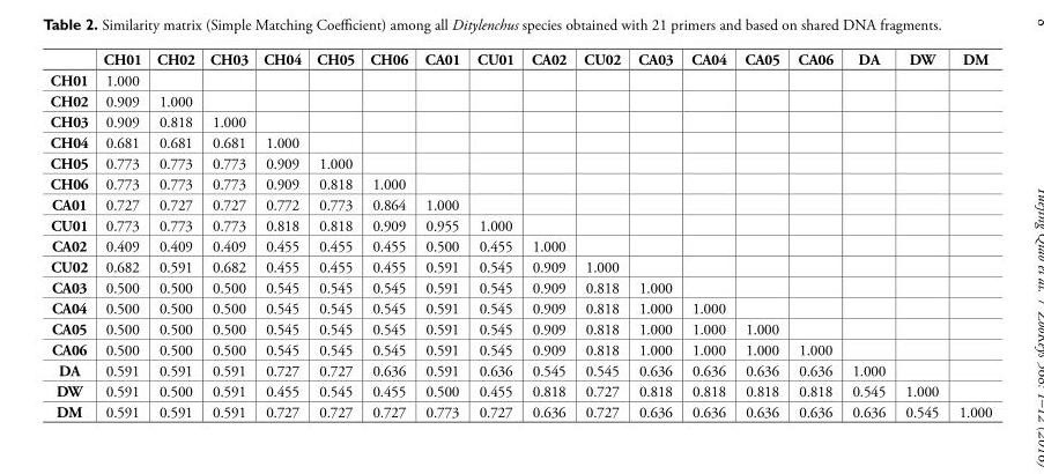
<table><thead><tr><td></td><td>CH01</td><td>CH02</td><td>CH03</td><td>CH04</td><td>CH05</td><td>CH06</td><td>CA01</td><td>CU01</td><td>CA02</td><td>CU02</td><td>CA03</td><td>CA04</td><td>CA05</td><td>CA06</td><td>DA</td><td>DW</td><td>DM</td></tr></thead><tbody><tr><td>CH01</td><td>1.000</td><td></td><td></td><td></td><td></td><td></td><td></td><td></td><td></td><td></td><td></td><td></td><td></td><td></td><td></td><td></td><td></td></tr><tr><td>CH02</td><td>0.909</td><td>1.000</td><td></td><td></td><td></td><td></td><td></td><td></td><td></td><td></td><td></td><td></td><td></td><td></td><td></td><td></td><td></td></tr><tr><td>CH03</td><td>0.909</td><td>0.818</td><td>1.000</td><td></td><td></td><td></td><td></td><td></td><td></td><td></td><td></td><td></td><td></td><td></td><td></td><td></td><td></td></tr><tr><td>CH04</td><td>0.681</td><td>0.681</td><td>0.681</td><td>1.000</td><td></td><td></td><td></td><td></td><td></td><td></td><td></td><td></td><td></td><td></td><td></td><td></td><td></td></tr><tr><td>CH05</td><td>0.773</td><td>0.773</td><td>0.773</td><td>0.909</td><td>1.000</td><td></td><td></td><td></td><td></td><td></td><td></td><td></td><td></td><td></td><td></td><td></td><td></td></tr><tr><td>CH06</td><td>0.773</td><td>0.773</td><td>0.773</td><td>0.909</td><td>0.818</td><td>1.000</td><td></td><td></td><td></td><td></td><td></td><td></td><td></td><td></td><td></td><td></td><td></td></tr><tr><td>CA01</td><td>0.727</td><td>0.727</td><td>0.727</td><td>0.772</td><td>0.773</td><td>0.864</td><td>1.000</td><td></td><td></td><td></td><td></td><td></td><td></td><td></td><td></td><td></td><td></td></tr><tr><td>CU01</td><td>0.773</td><td>0.773</td><td>0.773</td><td>0.818</td><td>0.818</td><td>0.909</td><td>0.955</td><td>1.000</td><td></td><td></td><td></td><td></td><td></td><td></td><td></td><td></td><td></td></tr><tr><td>CA02</td><td>0.409</td><td>0.409</td><td>0.409</td><td>0.455</td><td>0.455</td><td>0.455</td><td>0.500</td><td>0.455</td><td>1.000</td><td></td><td></td><td></td><td></td><td></td><td></td><td></td><td></td></tr><tr><td>CU02</td><td>0.682</td><td>0.591</td><td>0.682</td><td>0.455</td><td>0.455</td><td>0.455</td><td>0.591</td><td>0.545</td><td>0.909</td><td>1.000</td><td></td><td></td><td></td><td></td><td></td><td></td><td></td></tr><tr><td>CA03</td><td>0.500</td><td>0.500</td><td>0.500</td><td>0.545</td><td>0.545</td><td>0.545</td><td>0.591</td><td>0.545</td><td>0.909</td><td>0.818</td><td>1.000</td><td></td><td></td><td></td><td></td><td></td><td></td></tr><tr><td>CA04</td><td>0.500</td><td>0.500</td><td>0.500</td><td>0.545</td><td>0.545</td><td>0.545</td><td>0.591</td><td>0.545</td><td>0.909</td><td>0.818</td><td>1.000</td><td>1.000</td><td></td><td></td><td></td><td></td><td></td></tr><tr><td>CA05</td><td>0.500</td><td>0.500</td><td>0.500</td><td>0.545</td><td>0.545</td><td>0.545</td><td>0.591</td><td>0.545</td><td>0.909</td><td>0.818</td><td>1.000</td><td>1.000</td><td>1.000</td><td></td><td></td><td></td><td></td></tr><tr><td>CA06</td><td>0.500</td><td>0.500</td><td>0.500</td><td>0.545</td><td>0.545</td><td>0.545</td><td>0.591</td><td>0.545</td><td>0.909</td><td>0.818</td><td>1.000</td><td>1.000</td><td>1.000</td><td>1.000</td><td></td><td></td><td></td></tr><tr><td>DA</td><td>0.591</td><td>0.591</td><td>0.591</td><td>0.727</td><td>0.727</td><td>0.636</td><td>0.591</td><td>0.636</td><td>0.545</td><td>0.545</td><td>0.636</td><td>0.636</td><td>0.636</td><td>0.636</td><td>1.000</td><td></td><td></td></tr><tr><td>DW</td><td>0.591</td><td>0.500</td><td>0.591</td><td>0.455</td><td>0.545</td><td>0.455</td><td>0.500</td><td>0.455</td><td>0.818</td><td>0.727</td><td>0.818</td><td>0.818</td><td>0.818</td><td>0.818</td><td>0.545</td><td>1.000</td><td></td></tr><tr><td>DM</td><td>0.591</td><td>0.591</td><td>0.591</td><td>0.727</td><td>0.727</td><td>0.727</td><td>0.773</td><td>0.727</td><td>0.636</td><td>0.727</td><td>0.636</td><td>0.636</td><td>0.636</td><td>0.636</td><td>0.636</td><td>0.545</td><td>1.000</td></tr></tbody></table>